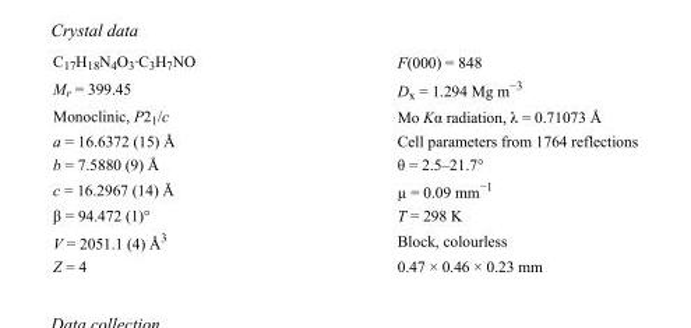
<table><tbody><tr><td>C<sub>17</sub>H<sub>18</sub>N<sub>4</sub>O<sub>3</sub>·C<sub>3</sub>H<sub>7</sub>NO</td><td>F(000) = 848</td></tr><tr><td>M<sub>r</sub> = 399.45</td><td>D<sub>x</sub> = 1.294 Mg m<sup>−3</sup></td></tr><tr><td>Monoclinic, P2<sub>1</sub>/c</td><td>Mo Kα radiation, λ = 0.71073 Å</td></tr><tr><td>a = 16.6372 (15) Å</td><td>Cell parameters from 1764 reflections</td></tr><tr><td>b = 7.5880 (9) Å</td><td>θ = 2.5–21.7°</td></tr><tr><td>c = 16.2967 (14) Å</td><td>µ = 0.09 mm<sup>−1</sup></td></tr><tr><td>β = 94.472 (1)°</td><td>T = 298 K</td></tr><tr><td>V = 2051.1 (4) Å<sup>3</sup></td><td>Block, colourless</td></tr><tr><td>Z = 4</td><td>0.47 × 0.46 × 0.23 mm</td></tr></tbody></table>